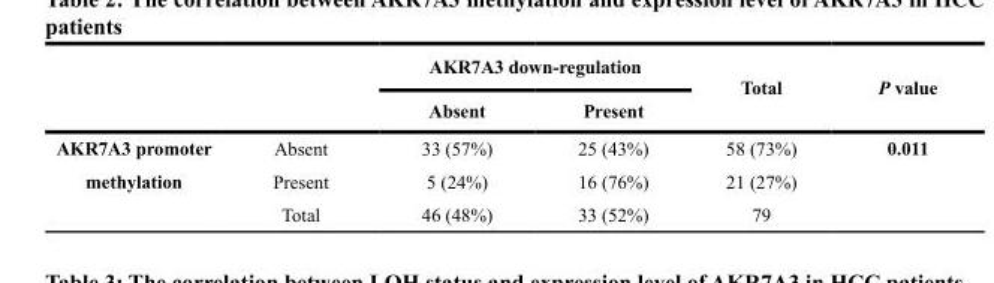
<table><thead><tr><td rowspan="2"></td><td rowspan="2"></td><td colspan="2">AKR7A3 down-regulation</td><td rowspan="2">Total</td><td rowspan="2">P value</td></tr><tr><td>Absent</td><td>Present</td></tr></thead><tbody><tr><td>AKR7A3 promoter</td><td>Absent</td><td>33 (57%)</td><td>25 (43%)</td><td>58 (73%)</td><td>0.011</td></tr><tr><td rowspan="2">methylation</td><td>Present</td><td>5 (24%)</td><td>16 (76%)</td><td>21 (27%)</td><td></td></tr><tr><td>Total</td><td>46 (48%)</td><td>33 (52%)</td><td>79</td><td></td></tr></tbody></table>